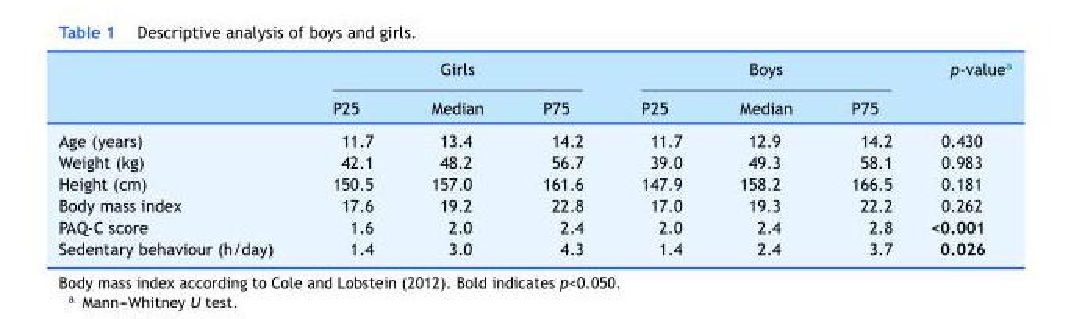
<table><thead><tr><td rowspan="2"></td><td colspan="3">Girls</td><td colspan="3">Boys</td><td rowspan="2">p-value<sup>a</sup></td></tr><tr><td>P25</td><td>Median</td><td>P75</td><td>P25</td><td>Median</td><td>P75</td></tr></thead><tbody><tr><td>Age (years)</td><td>11.7</td><td>13.4</td><td>14.2</td><td>11.7</td><td>12.9</td><td>14.2</td><td>0.430</td></tr><tr><td>Weight (kg)</td><td>42.1</td><td>48.2</td><td>56.7</td><td>39.0</td><td>49.3</td><td>58.1</td><td>0.983</td></tr><tr><td>Height (cm)</td><td>150.5</td><td>157.0</td><td>161.6</td><td>147.9</td><td>158.2</td><td>166.5</td><td>0.181</td></tr><tr><td>Body mass index</td><td>17.6</td><td>19.2</td><td>22.8</td><td>17.0</td><td>19.3</td><td>22.2</td><td>0.262</td></tr><tr><td>PAQ-C score</td><td>1.6</td><td>2.0</td><td>2.4</td><td>2.0</td><td>2.4</td><td>2.8</td><td>&lt;0.001</td></tr><tr><td>Sedentary behaviour (h/day)</td><td>1.4</td><td>3.0</td><td>4.3</td><td>1.4</td><td>2.4</td><td>3.7</td><td>0.026</td></tr></tbody></table>